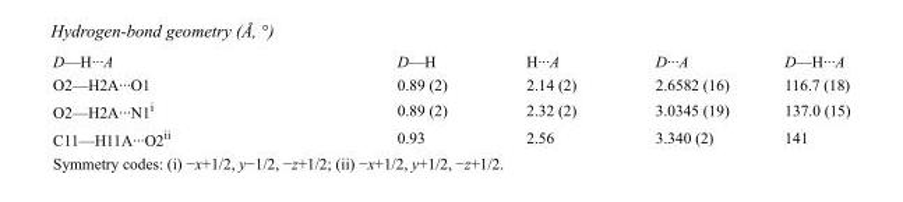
<table><tbody><tr><td>D—H···A</td><td>D—H</td><td>H···A</td><td>D···A</td><td>D—H···A</td></tr><tr><td>O2—H2A···O1</td><td>0.89 (2)</td><td>2.14 (2)</td><td>2.6582 (16)</td><td>116.7 (18)</td></tr><tr><td>O2—H2A···N1<sup>i</sup></td><td>0.89 (2)</td><td>2.32 (2)</td><td>3.0345 (19)</td><td>137.0 (15)</td></tr><tr><td>C11—H11A···O2<sup>ii</sup></td><td>0.93</td><td>2.56</td><td>3.340 (2)</td><td>141</td></tr></tbody></table>